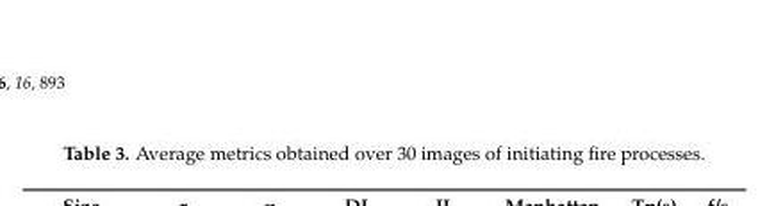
<table><thead><tr><td>Size</td><td>r</td><td>p</td><td>DI</td><td>JI</td><td>Manhattan</td><td>Tp(s)</td><td>f/s</td></tr></thead><tbody><tr><td>960 × 540</td><td>97.18%</td><td>96.62%</td><td>96.90%</td><td>93.98%</td><td>97.55%</td><td>0.0441</td><td>22</td></tr><tr><td>480 × 270</td><td>96.90%</td><td>96.62%</td><td>96.76%</td><td>93.73%</td><td>97.44%</td><td>0.0181</td><td>55</td></tr></tbody></table>